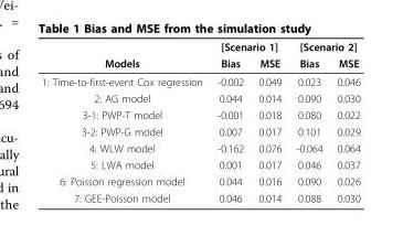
<table><thead><tr><td rowspan="2">Models</td><td colspan="2">[Scenario 1]</td><td colspan="2">[Scenario 2]</td></tr><tr><td>Bias</td><td>MSE</td><td>Bias</td><td>MSE</td></tr></thead><tbody><tr><td>1: Time-to-first-event Cox regression</td><td>-0.002</td><td>0.049</td><td>0.023</td><td>0.046</td></tr><tr><td>2: AG model</td><td>0.044</td><td>0.014</td><td>0.090</td><td>0.030</td></tr><tr><td>3-1: PWP-T model</td><td>-0.001</td><td>0.018</td><td>0.080</td><td>0.022</td></tr><tr><td>3-2: PWP-G model</td><td>0.007</td><td>0.017</td><td>0.101</td><td>0.029</td></tr><tr><td>4: WLW model</td><td>-0.162</td><td>0.076</td><td>-0.064</td><td>0.064</td></tr><tr><td>5: LWA model</td><td>0.001</td><td>0.017</td><td>0.046</td><td>0.037</td></tr><tr><td>6: Poisson regression model</td><td>0.044</td><td>0.016</td><td>0.090</td><td>0.026</td></tr><tr><td>7: GEE-Poisson model</td><td>0.046</td><td>0.014</td><td>0.088</td><td>0.030</td></tr></tbody></table>